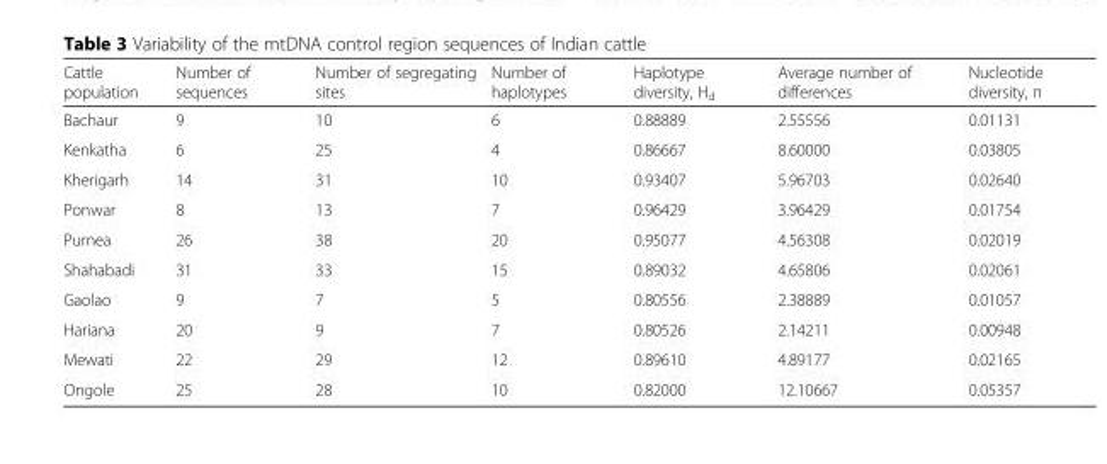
<table><thead><tr><td>Cattle population</td><td>Number of sequences</td><td>Number of segregating sites</td><td>Number of haplotypes</td><td>Haplotype diversity, H<sub>d</sub></td><td>Average number of differences</td><td>Nucleotide diversity, π</td></tr></thead><tbody><tr><td>Bachaur</td><td>9</td><td>10</td><td>6</td><td>0.88889</td><td>2.55556</td><td>0.01131</td></tr><tr><td>Kenkatha</td><td>6</td><td>25</td><td>4</td><td>0.86667</td><td>8.60000</td><td>0.03805</td></tr><tr><td>Kherigarh</td><td>14</td><td>31</td><td>10</td><td>0.93407</td><td>5.96703</td><td>0.02640</td></tr><tr><td>Ponwar</td><td>8</td><td>13</td><td>7</td><td>0.96429</td><td>3.96429</td><td>0.01754</td></tr><tr><td>Purnea</td><td>26</td><td>38</td><td>20</td><td>0.95077</td><td>4.56308</td><td>0.02019</td></tr><tr><td>Shahabadi</td><td>31</td><td>33</td><td>15</td><td>0.89032</td><td>4.65806</td><td>0.02061</td></tr><tr><td>Gaolao</td><td>9</td><td>7</td><td>5</td><td>0.80556</td><td>2.38889</td><td>0.01057</td></tr><tr><td>Hariana</td><td>20</td><td>9</td><td>7</td><td>0.80526</td><td>2.14211</td><td>0.00948</td></tr><tr><td>Mewati</td><td>22</td><td>29</td><td>12</td><td>0.89610</td><td>4.89177</td><td>0.02165</td></tr><tr><td>Ongole</td><td>25</td><td>28</td><td>10</td><td>0.82000</td><td>12.10667</td><td>0.05357</td></tr></tbody></table>